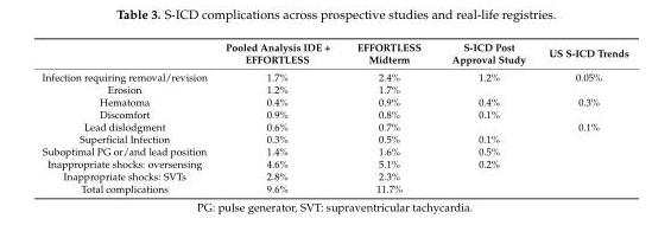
<table><thead><tr><td></td><td>Pooled Analysis IDE + EFFORTLESS</td><td>EFFORTLESS Midterm</td><td>S-ICD Post Approval Study</td><td>US S-ICD Trends</td></tr></thead><tbody><tr><td>Infection requiring removal/revision</td><td>1.7%</td><td>2.4%</td><td>1.2%</td><td>0.05%</td></tr><tr><td>Erosion</td><td>1.2%</td><td>1.7%</td><td></td><td></td></tr><tr><td>Hematoma</td><td>0.4%</td><td>0.9%</td><td>0.4%</td><td>0.3%</td></tr><tr><td>Discomfort</td><td>0.9%</td><td>0.8%</td><td>0.1%</td><td></td></tr><tr><td>Lead dislodgment</td><td>0.6%</td><td>0.7%</td><td></td><td>0.1%</td></tr><tr><td>Superficial Infection</td><td>0.3%</td><td>0.5%</td><td>0.1%</td><td></td></tr><tr><td>Suboptimal PG or/and lead position</td><td>1.4%</td><td>1.6%</td><td>0.5%</td><td></td></tr><tr><td>Inappropriate shocks: oversensing</td><td>4.6%</td><td>5.1%</td><td>0.2%</td><td></td></tr><tr><td>Inappropriate shocks: SVTs</td><td>2.8%</td><td>2.3%</td><td></td><td></td></tr><tr><td>Total complications</td><td>9.6%</td><td>11.7%</td><td></td><td></td></tr></tbody></table>